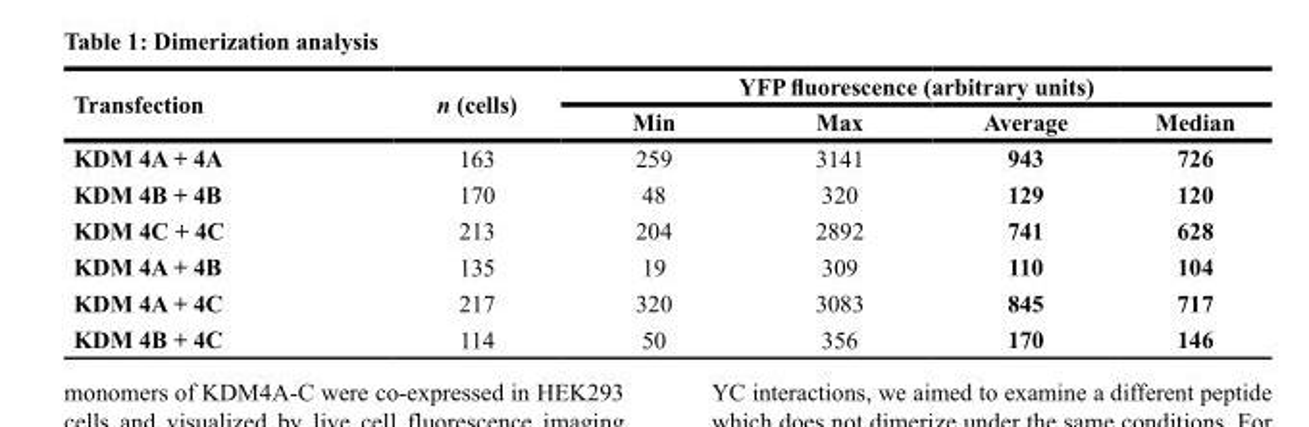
<table><thead><tr><td rowspan="2">Transfection</td><td rowspan="2">n (cells)</td><td colspan="4">YFP fluorescence (arbitrary units)</td></tr><tr><td>Min</td><td>Max</td><td>Average</td><td>Median</td></tr></thead><tbody><tr><td>KDM 4A + 4A</td><td>163</td><td>259</td><td>3141</td><td>943</td><td>726</td></tr><tr><td>KDM 4B + 4B</td><td>170</td><td>48</td><td>320</td><td>129</td><td>120</td></tr><tr><td>KDM 4C + 4C</td><td>213</td><td>204</td><td>2892</td><td>741</td><td>628</td></tr><tr><td>KDM 4A + 4B</td><td>135</td><td>19</td><td>309</td><td>110</td><td>104</td></tr><tr><td>KDM 4A + 4C</td><td>217</td><td>320</td><td>3083</td><td>845</td><td>717</td></tr><tr><td>KDM 4B + 4C</td><td>114</td><td>50</td><td>356</td><td>170</td><td>146</td></tr></tbody></table>